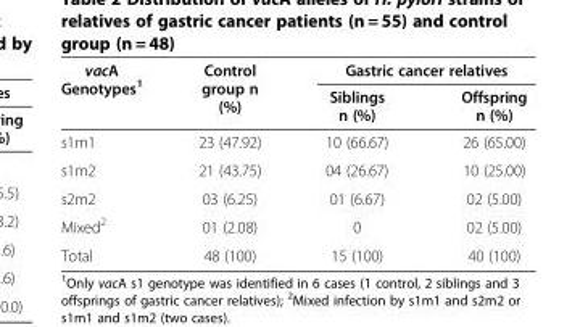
<table><thead><tr><td rowspan="2">vacA Genotypes<sup>1</sup></td><td rowspan="2">Control group n (%)</td><td colspan="2">Gastric cancer relatives</td></tr><tr><td>Siblings n (%)</td><td>Offspring n (%)</td></tr></thead><tbody><tr><td>s1m1</td><td>23 (47.92)</td><td>10 (66.67)</td><td>26 (65.00)</td></tr><tr><td>s1m2</td><td>21 (43.75)</td><td>04 (26.67)</td><td>10 (25.00)</td></tr><tr><td>s2m2</td><td>03 (6.25)</td><td>01 (6.67)</td><td>02 (5.00)</td></tr><tr><td>Mixed<sup>2</sup></td><td>01 (2.08)</td><td>0</td><td>02 (5.00)</td></tr><tr><td>Total</td><td>48 (100)</td><td>15 (100)</td><td>40 (100)</td></tr></tbody></table>